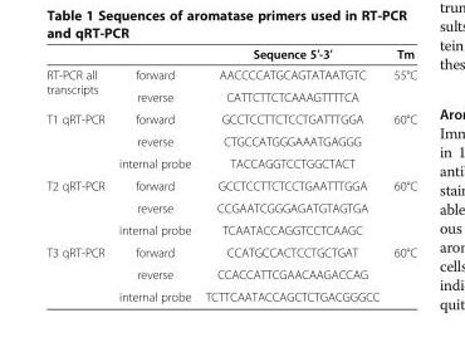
<table><thead><tr><td></td><td></td><td>Sequence 5′-3′</td><td>Tm</td></tr></thead><tbody><tr><td rowspan="2">RT-PCR all transcripts</td><td>forward</td><td>AACCCCATGCAGTATAATGTC</td><td rowspan="2">55°C</td></tr><tr><td>reverse</td><td>CATTCTTCTCAAAGTTTTCA</td></tr><tr><td rowspan="3">T1 qRT-PCR</td><td>forward</td><td>GCCTCCTTCTCCTGATTTGGA</td><td rowspan="3">60°C</td></tr><tr><td>reverse</td><td>CTGCCATGGGAAATGAGGG</td></tr><tr><td>internal probe</td><td>TACCAGGTCCTGGCTACT</td></tr><tr><td rowspan="3">T2 qRT-PCR</td><td>forward</td><td>GCCTCCTTCTCCTGAATTTGGA</td><td rowspan="3">60°C</td></tr><tr><td>reverse</td><td>CCGAATCGGGAGATGTAGTGA</td></tr><tr><td>internal probe</td><td>TCAATACCAGGTCCTCAAGC</td></tr><tr><td rowspan="3">T3 qRT-PCR</td><td>forward</td><td>CCATGCCACTCCTGCTGAT</td><td rowspan="3">60°C</td></tr><tr><td>reverse</td><td>CCACCATTCGAACAAGACCAG</td></tr><tr><td>internal probe</td><td>TCTTCAATACCAGCTCTGACGGGCC</td></tr></tbody></table>